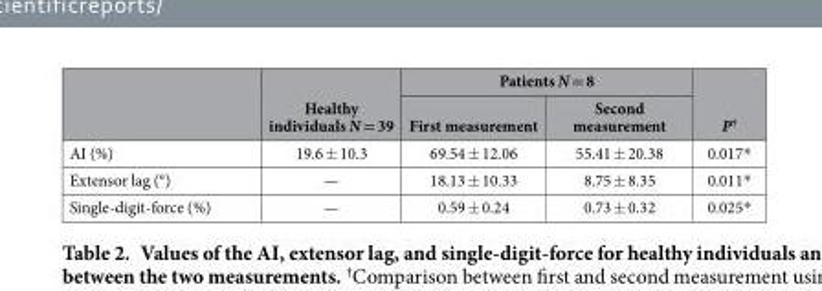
<table><thead><tr><td rowspan="2"></td><td rowspan="2">Healthy individuals N = 39</td><td colspan="2">Patients N = 8</td><td rowspan="2">P†</td></tr><tr><td>First measurement</td><td>Second measurement</td></tr></thead><tbody><tr><td>AI (%)</td><td>19.6 ± 10.3</td><td>69.54 ± 12.06</td><td>55.41 ± 20.38</td><td>0.017*</td></tr><tr><td>Extensor lag (°)</td><td>—</td><td>18.13 ± 10.33</td><td>8.75 ± 8.35</td><td>0.011*</td></tr><tr><td>Single-digit-force (%)</td><td>—</td><td>0.59 ± 0.24</td><td>0.73 ± 0.32</td><td>0.025*</td></tr></tbody></table>